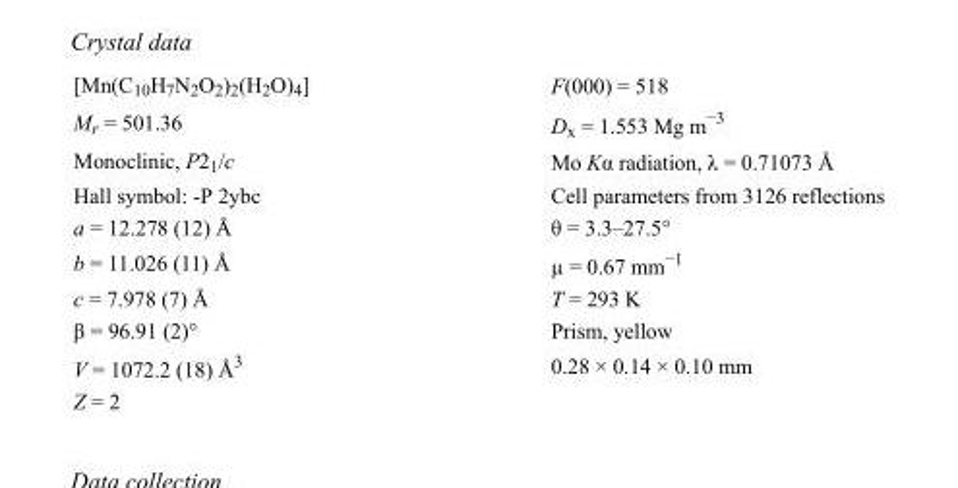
<table><tbody><tr><td>[Mn(C<sub>10</sub>H<sub>7</sub>N<sub>2</sub>O<sub>2</sub>)<sub>2</sub>(H<sub>2</sub>O)<sub>4</sub>]</td><td>F(000) = 518</td></tr><tr><td>M<sub>r</sub> = 501.36</td><td>D<sub>x</sub> = 1.553 Mg m<sup>−3</sup></td></tr><tr><td>Monoclinic, P2<sub>1</sub>/c</td><td>Mo Kα radiation, λ = 0.71073 Å</td></tr><tr><td>Hall symbol: -P 2ybc</td><td>Cell parameters from 3126 reflections</td></tr><tr><td>a = 12.278 (12) Å</td><td>θ = 3.3–27.5°</td></tr><tr><td>b = 11.026 (11) Å</td><td>µ = 0.67 mm<sup>−1</sup></td></tr><tr><td>c = 7.978 (7) Å</td><td>T = 293 K</td></tr><tr><td>β = 96.91 (2)°</td><td>Prism, yellow</td></tr><tr><td>V = 1072.2 (18) Å<sup>3</sup></td><td>0.28 × 0.14 × 0.10 mm</td></tr><tr><td>Z = 2</td><td></td></tr></tbody></table>